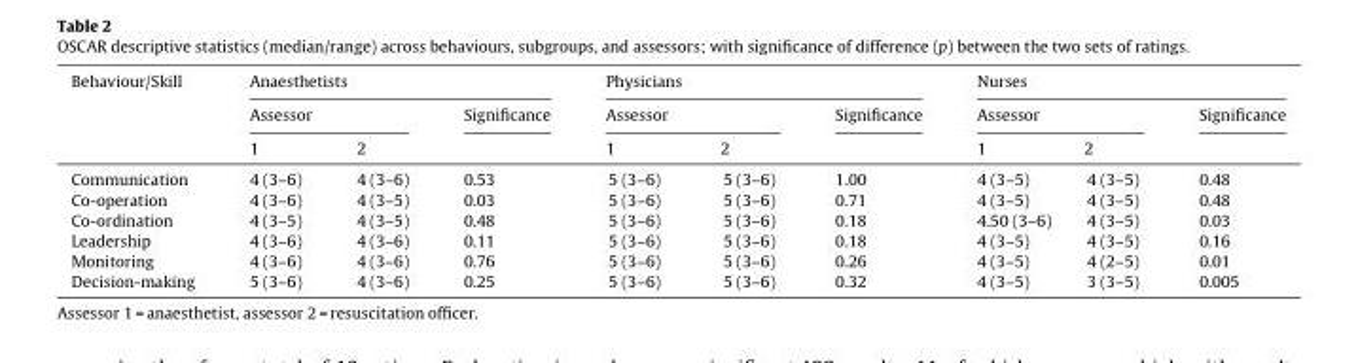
<table><thead><tr><td rowspan="3">Behaviour/Skill</td><td colspan="3">Anaesthetists</td><td colspan="3">Physicians</td><td colspan="3">Nurses</td></tr><tr><td colspan="2">Assessor</td><td rowspan="2">Significance</td><td colspan="2">Assessor</td><td rowspan="2">Significance</td><td colspan="2">Assessor</td><td rowspan="2">Significance</td></tr><tr><td>1</td><td>2</td><td>1</td><td>2</td><td>1</td><td>2</td></tr></thead><tbody><tr><td>Communication</td><td>4 (3–6)</td><td>4 (3–6)</td><td>0.53</td><td>5 (3–6)</td><td>5 (3–6)</td><td>1.00</td><td>4 (3–5)</td><td>4 (3–5)</td><td>0.48</td></tr><tr><td>Co-operation</td><td>4 (3–6)</td><td>4 (3–5)</td><td>0.03</td><td>5 (3–6)</td><td>5 (3–6)</td><td>0.71</td><td>4 (3–5)</td><td>4 (3–5)</td><td>0.48</td></tr><tr><td>Co-ordination</td><td>4 (3–5)</td><td>4 (3–5)</td><td>0.48</td><td>5 (3–6)</td><td>5 (3–6)</td><td>0.18</td><td>4.50 (3–6)</td><td>4 (3–5)</td><td>0.03</td></tr><tr><td>Leadership</td><td>4 (3–6)</td><td>4 (3–6)</td><td>0.11</td><td>5 (3–6)</td><td>5 (3–6)</td><td>0.18</td><td>4 (3–5)</td><td>4 (3–5)</td><td>0.16</td></tr><tr><td>Monitoring</td><td>4 (3–6)</td><td>4 (3–6)</td><td>0.76</td><td>5 (3–6)</td><td>5 (3–6)</td><td>0.26</td><td>4 (3–5)</td><td>4 (2–5)</td><td>0.01</td></tr><tr><td>Decision-making</td><td>5 (3–6)</td><td>4 (3–6)</td><td>0.25</td><td>5 (3–6)</td><td>5 (3–6)</td><td>0.32</td><td>4 (3–5)</td><td>3 (3–5)</td><td>0.005</td></tr></tbody></table>